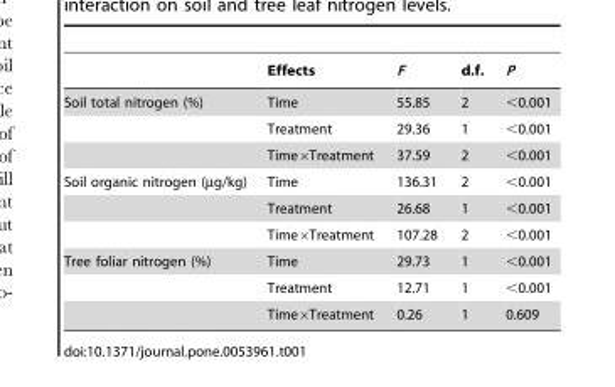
<table><thead><tr><td></td><td>Effects</td><td>F</td><td>d.f.</td><td>P</td></tr></thead><tbody><tr><td rowspan="3">Soil total nitrogen (%)</td><td>Time</td><td>55.85</td><td>2</td><td>&lt;0.001</td></tr><tr><td>Treatment</td><td>29.36</td><td>1</td><td>&lt;0.001</td></tr><tr><td>Time×Treatment</td><td>37.59</td><td>2</td><td>&lt;0.001</td></tr><tr><td rowspan="3">Soil organic nitrogen (µg/kg)</td><td>Time</td><td>136.31</td><td>2</td><td>&lt;0.001</td></tr><tr><td>Treatment</td><td>26.68</td><td>1</td><td>&lt;0.001</td></tr><tr><td>Time×Treatment</td><td>107.28</td><td>2</td><td>&lt;0.001</td></tr><tr><td rowspan="3">Tree foliar nitrogen (%)</td><td>Time</td><td>29.73</td><td>1</td><td>&lt;0.001</td></tr><tr><td>Treatment</td><td>12.71</td><td>1</td><td>&lt;0.001</td></tr><tr><td>Time×Treatment</td><td>0.26</td><td>1</td><td>0.609</td></tr></tbody></table>